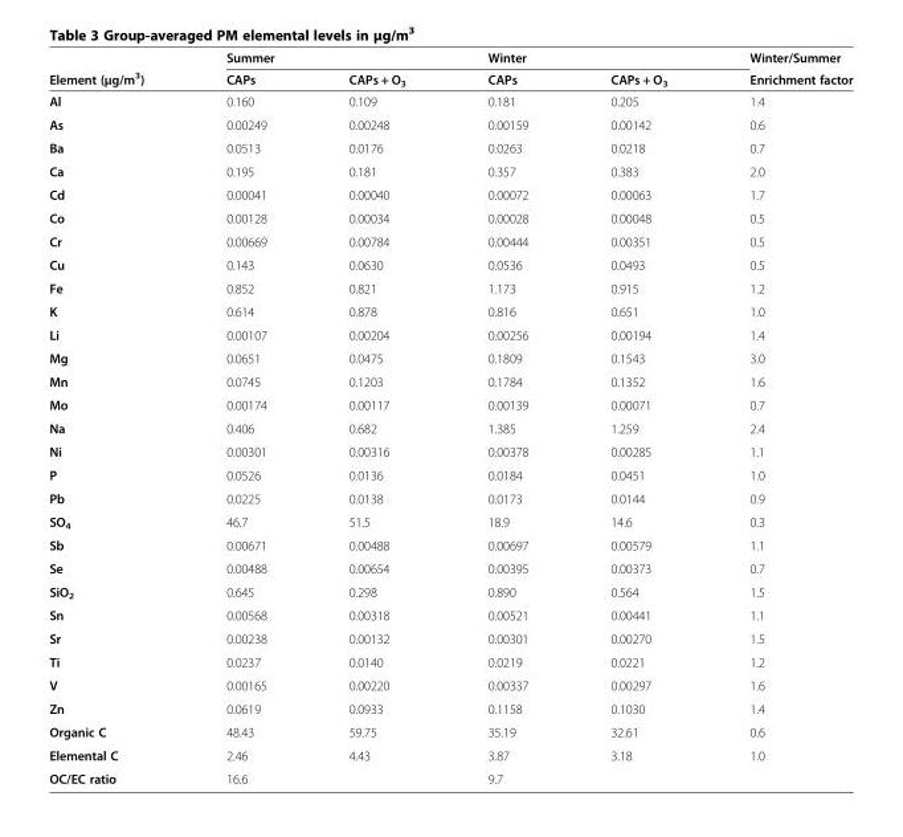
<table><thead><tr><td rowspan="2">Element (μg/m<sup>3</sup>)</td><td colspan="2">Summer</td><td colspan="2">Winter</td><td rowspan="2">Winter/Summer Enrichment factor</td></tr><tr><td>CAPs</td><td>CAPs + O<sub>3</sub></td><td>CAPs</td><td>CAPs + O<sub>3</sub></td></tr></thead><tbody><tr><td>Al</td><td>0.160</td><td>0.109</td><td>0.181</td><td>0.205</td><td>1.4</td></tr><tr><td>As</td><td>0.00249</td><td>0.00248</td><td>0.00159</td><td>0.00142</td><td>0.6</td></tr><tr><td>Ba</td><td>0.0513</td><td>0.0176</td><td>0.0263</td><td>0.0218</td><td>0.7</td></tr><tr><td>Ca</td><td>0.195</td><td>0.181</td><td>0.357</td><td>0.383</td><td>2.0</td></tr><tr><td>Cd</td><td>0.00041</td><td>0.00040</td><td>0.00072</td><td>0.00063</td><td>1.7</td></tr><tr><td>Co</td><td>0.00128</td><td>0.00034</td><td>0.00028</td><td>0.00048</td><td>0.5</td></tr><tr><td>Cr</td><td>0.00669</td><td>0.00784</td><td>0.00444</td><td>0.00351</td><td>0.5</td></tr><tr><td>Cu</td><td>0.143</td><td>0.0630</td><td>0.0536</td><td>0.0493</td><td>0.5</td></tr><tr><td>Fe</td><td>0.852</td><td>0.821</td><td>1.173</td><td>0.915</td><td>1.2</td></tr><tr><td>K</td><td>0.614</td><td>0.878</td><td>0.816</td><td>0.651</td><td>1.0</td></tr><tr><td>Li</td><td>0.00107</td><td>0.00204</td><td>0.00256</td><td>0.00194</td><td>1.4</td></tr><tr><td>Mg</td><td>0.0651</td><td>0.0475</td><td>0.1809</td><td>0.1543</td><td>3.0</td></tr><tr><td>Mn</td><td>0.0745</td><td>0.1203</td><td>0.1784</td><td>0.1352</td><td>1.6</td></tr><tr><td>Mo</td><td>0.00174</td><td>0.00117</td><td>0.00139</td><td>0.00071</td><td>0.7</td></tr><tr><td>Na</td><td>0.406</td><td>0.682</td><td>1.385</td><td>1.259</td><td>2.4</td></tr><tr><td>Ni</td><td>0.00301</td><td>0.00316</td><td>0.00378</td><td>0.00285</td><td>1.1</td></tr><tr><td>P</td><td>0.0526</td><td>0.0136</td><td>0.0184</td><td>0.0451</td><td>1.0</td></tr><tr><td>Pb</td><td>0.0225</td><td>0.0138</td><td>0.0173</td><td>0.0144</td><td>0.9</td></tr><tr><td>SO<sub>4</sub></td><td>46.7</td><td>51.5</td><td>18.9</td><td>14.6</td><td>0.3</td></tr><tr><td>Sb</td><td>0.00671</td><td>0.00488</td><td>0.00697</td><td>0.00579</td><td>1.1</td></tr><tr><td>Se</td><td>0.00488</td><td>0.00654</td><td>0.00395</td><td>0.00373</td><td>0.7</td></tr><tr><td>SiO<sub>2</sub></td><td>0.645</td><td>0.298</td><td>0.890</td><td>0.564</td><td>1.5</td></tr><tr><td>Sn</td><td>0.00568</td><td>0.00318</td><td>0.00521</td><td>0.00441</td><td>1.1</td></tr><tr><td>Sr</td><td>0.00238</td><td>0.00132</td><td>0.00301</td><td>0.00270</td><td>1.5</td></tr><tr><td>Ti</td><td>0.0237</td><td>0.0140</td><td>0.0219</td><td>0.0221</td><td>1.2</td></tr><tr><td>V</td><td>0.00165</td><td>0.00220</td><td>0.00337</td><td>0.00297</td><td>1.6</td></tr><tr><td>Zn</td><td>0.0619</td><td>0.0933</td><td>0.1158</td><td>0.1030</td><td>1.4</td></tr><tr><td>Organic C</td><td>48.43</td><td>59.75</td><td>35.19</td><td>32.61</td><td>0.6</td></tr><tr><td>Elemental C</td><td>2.46</td><td>4.43</td><td>3.87</td><td>3.18</td><td>1.0</td></tr><tr><td>OC/EC ratio</td><td colspan="2">16.6</td><td colspan="2">9.7</td><td></td></tr></tbody></table>